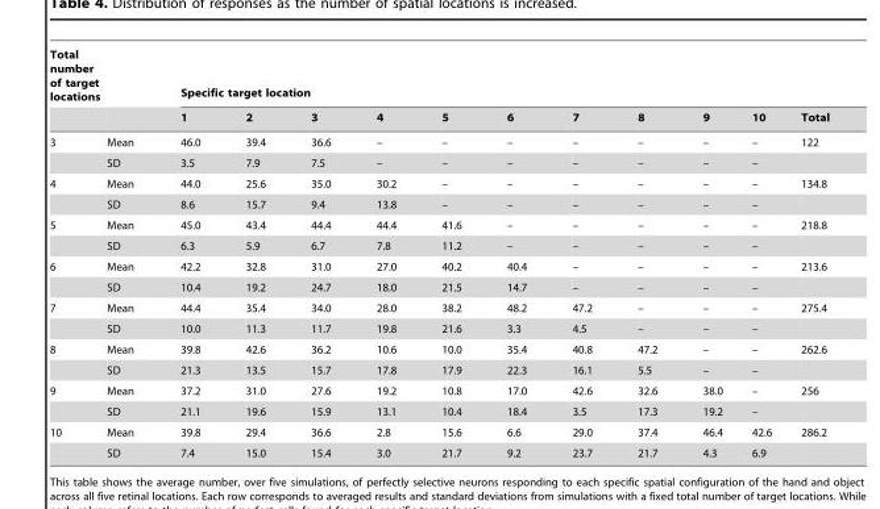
<table><thead><tr><td rowspan="2">Total number of target locations</td><td rowspan="2"></td><td colspan="11">Specific target location</td></tr><tr><td>1</td><td>2</td><td>3</td><td>4</td><td>5</td><td>6</td><td>7</td><td>8</td><td>9</td><td>10</td><td>Total</td></tr></thead><tbody><tr><td rowspan="2">3</td><td>Mean</td><td>46.0</td><td>39.4</td><td>36.6</td><td>–</td><td>–</td><td>–</td><td>–</td><td>–</td><td>–</td><td>–</td><td>122</td></tr><tr><td>SD</td><td>3.5</td><td>7.9</td><td>7.5</td><td>–</td><td>–</td><td>–</td><td>–</td><td>–</td><td>–</td><td>–</td><td></td></tr><tr><td rowspan="2">4</td><td>Mean</td><td>44.0</td><td>25.6</td><td>35.0</td><td>30.2</td><td>–</td><td>–</td><td>–</td><td>–</td><td>–</td><td>–</td><td>134.8</td></tr><tr><td>SD</td><td>8.6</td><td>15.7</td><td>9.4</td><td>13.8</td><td>–</td><td>–</td><td>–</td><td>–</td><td>–</td><td>–</td><td></td></tr><tr><td rowspan="2">5</td><td>Mean</td><td>45.0</td><td>43.4</td><td>44.4</td><td>44.4</td><td>41.6</td><td>–</td><td>–</td><td>–</td><td>–</td><td>–</td><td>218.8</td></tr><tr><td>SD</td><td>6.3</td><td>5.9</td><td>6.7</td><td>7.8</td><td>11.2</td><td>–</td><td>–</td><td>–</td><td>–</td><td>–</td><td></td></tr><tr><td rowspan="2">6</td><td>Mean</td><td>42.2</td><td>32.8</td><td>31.0</td><td>27.0</td><td>40.2</td><td>40.4</td><td>–</td><td>–</td><td>–</td><td>–</td><td>213.6</td></tr><tr><td>SD</td><td>10.4</td><td>19.2</td><td>24.7</td><td>18.0</td><td>21.5</td><td>14.7</td><td>–</td><td>–</td><td>–</td><td>–</td><td></td></tr><tr><td rowspan="2">7</td><td>Mean</td><td>44.4</td><td>35.4</td><td>34.0</td><td>28.0</td><td>38.2</td><td>48.2</td><td>47.2</td><td>–</td><td>–</td><td>–</td><td>275.4</td></tr><tr><td>SD</td><td>10.0</td><td>11.3</td><td>11.7</td><td>19.8</td><td>21.6</td><td>3.3</td><td>4.5</td><td>–</td><td>–</td><td>–</td><td></td></tr><tr><td rowspan="2">8</td><td>Mean</td><td>39.8</td><td>42.6</td><td>36.2</td><td>10.6</td><td>10.0</td><td>35.4</td><td>40.8</td><td>47.2</td><td>–</td><td>–</td><td>262.6</td></tr><tr><td>SD</td><td>21.3</td><td>13.5</td><td>15.7</td><td>17.8</td><td>17.9</td><td>22.3</td><td>16.1</td><td>5.5</td><td>–</td><td>–</td><td></td></tr><tr><td rowspan="2">9</td><td>Mean</td><td>37.2</td><td>31.0</td><td>27.6</td><td>19.2</td><td>10.8</td><td>17.0</td><td>42.6</td><td>32.6</td><td>38.0</td><td>–</td><td>256</td></tr><tr><td>SD</td><td>21.1</td><td>19.6</td><td>15.9</td><td>13.1</td><td>10.4</td><td>18.4</td><td>3.5</td><td>17.3</td><td>19.2</td><td>–</td><td></td></tr><tr><td rowspan="2">10</td><td>Mean</td><td>39.8</td><td>29.4</td><td>36.6</td><td>2.8</td><td>15.6</td><td>6.6</td><td>29.0</td><td>37.4</td><td>46.4</td><td>42.6</td><td>286.2</td></tr><tr><td>SD</td><td>7.4</td><td>15.0</td><td>15.4</td><td>3.0</td><td>21.7</td><td>9.2</td><td>23.7</td><td>21.7</td><td>4.3</td><td>6.9</td><td></td></tr></tbody></table>